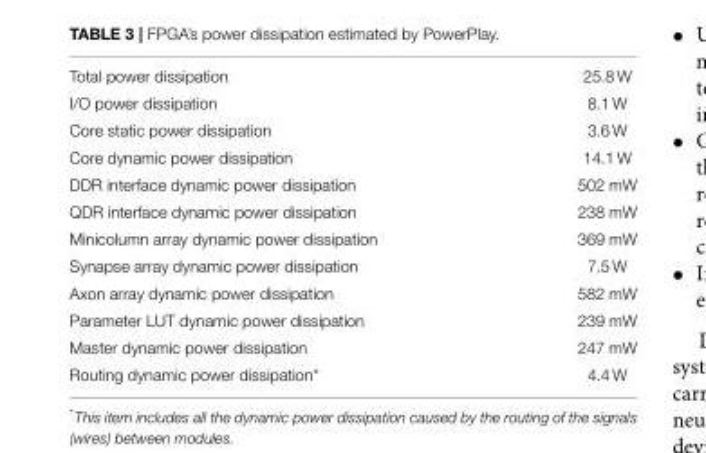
<table><tbody><tr><td>Total power dissipation</td><td>25.8 W</td></tr><tr><td>I/O power dissipation</td><td>8.1 W</td></tr><tr><td>Core static power dissipation</td><td>3.6 W</td></tr><tr><td>Core dynamic power dissipation</td><td>14.1 W</td></tr><tr><td>DDR interface dynamic power dissipation</td><td>502 mW</td></tr><tr><td>QDR interface dynamic power dissipation</td><td>238 mW</td></tr><tr><td>Minicolumn array dynamic power dissipation</td><td>369 mW</td></tr><tr><td>Synapse array dynamic power dissipation</td><td>7.5 W</td></tr><tr><td>Axon array dynamic power dissipation</td><td>582 mW</td></tr><tr><td>Parameter LUT dynamic power dissipation</td><td>239 mW</td></tr><tr><td>Master dynamic power dissipation</td><td>247 mW</td></tr><tr><td>Routing dynamic power dissipation*</td><td>4.4 W</td></tr></tbody></table>